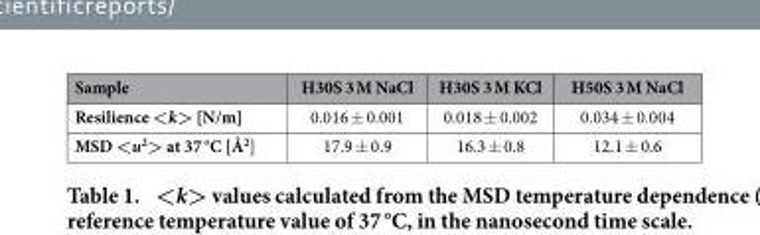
<table><thead><tr><td>Sample</td><td>H30S 3 M NaCl</td><td>H30S 3 M KCl</td><td>H50S 3 M NaCl</td></tr></thead><tbody><tr><td>Resilience &lt;k&gt; [N/m]</td><td>0.016 ± 0.001</td><td>0.018 ± 0.002</td><td>0.034 ± 0.004</td></tr><tr><td>MSD &lt;u<sup>2</sup>&gt; at 37 °C [Å<sup>2</sup>]</td><td>17.9 ± 0.9</td><td>16.3 ± 0.8</td><td>12.1 ± 0.6</td></tr></tbody></table>